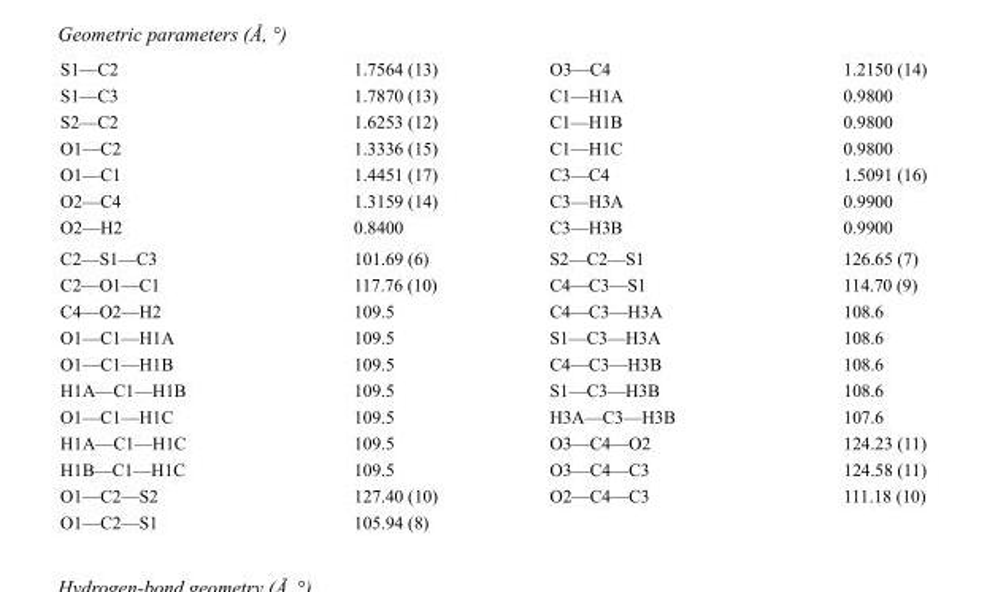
<table><tbody><tr><td>S1—C2</td><td>1.7564 (13)</td><td>O3—C4</td><td>1.2150 (14)</td></tr><tr><td>S1—C3</td><td>1.7870 (13)</td><td>C1—H1A</td><td>0.9800</td></tr><tr><td>S2—C2</td><td>1.6253 (12)</td><td>C1—H1B</td><td>0.9800</td></tr><tr><td>O1—C2</td><td>1.3336 (15)</td><td>C1—H1C</td><td>0.9800</td></tr><tr><td>O1—C1</td><td>1.4451 (17)</td><td>C3—C4</td><td>1.5091 (16)</td></tr><tr><td>O2—C4</td><td>1.3159 (14)</td><td>C3—H3A</td><td>0.9900</td></tr><tr><td>O2—H2</td><td>0.8400</td><td>C3—H3B</td><td>0.9900</td></tr><tr><td>C2—S1—C3</td><td>101.69 (6)</td><td>S2—C2—S1</td><td>126.65 (7)</td></tr><tr><td>C2—O1—C1</td><td>117.76 (10)</td><td>C4—C3—S1</td><td>114.70 (9)</td></tr><tr><td>C4—O2—H2</td><td>109.5</td><td>C4—C3—H3A</td><td>108.6</td></tr><tr><td>O1—C1—H1A</td><td>109.5</td><td>S1—C3—H3A</td><td>108.6</td></tr><tr><td>O1—C1—H1B</td><td>109.5</td><td>C4—C3—H3B</td><td>108.6</td></tr><tr><td>H1A—C1—H1B</td><td>109.5</td><td>S1—C3—H3B</td><td>108.6</td></tr><tr><td>O1—C1—H1C</td><td>109.5</td><td>H3A—C3—H3B</td><td>107.6</td></tr><tr><td>H1A—C1—H1C</td><td>109.5</td><td>O3—C4—O2</td><td>124.23 (11)</td></tr><tr><td>H1B—C1—H1C</td><td>109.5</td><td>O3—C4—C3</td><td>124.58 (11)</td></tr><tr><td>O1—C2—S2</td><td>127.40 (10)</td><td>O2—C4—C3</td><td>111.18 (10)</td></tr><tr><td>O1—C2—S1</td><td>105.94 (8)</td><td></td><td></td></tr></tbody></table>